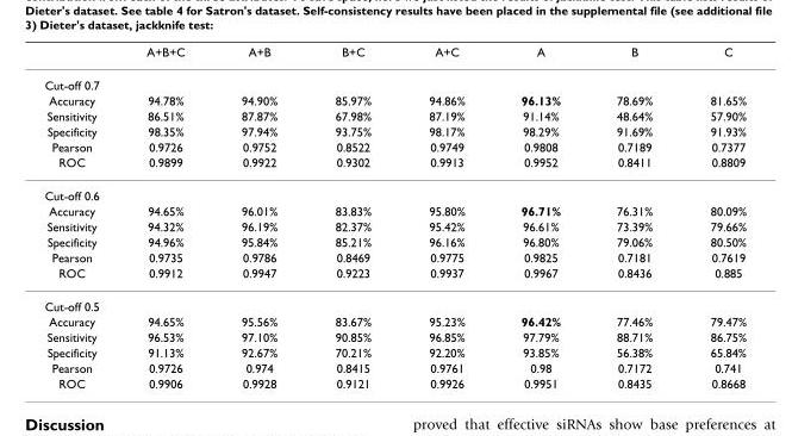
<table><thead><tr><td></td><td>A+B+C</td><td>A+B</td><td>B+C</td><td>A+C</td><td>A</td><td>B</td><td>C</td></tr></thead><tbody><tr><td colspan="8">Cut-off 0.7</td></tr><tr><td>Accuracy</td><td>94.78%</td><td>94.90%</td><td>85.97%</td><td>94.86%</td><td>96.13%</td><td>78.69%</td><td>81.65%</td></tr><tr><td>Sensitivity</td><td>86.51%</td><td>87.87%</td><td>67.98%</td><td>87.19%</td><td>91.14%</td><td>48.64%</td><td>57.90%</td></tr><tr><td>Specificity</td><td>98.35%</td><td>97.94%</td><td>93.75%</td><td>98.17%</td><td>98.29%</td><td>91.69%</td><td>91.93%</td></tr><tr><td>Pearson</td><td>0.9726</td><td>0.9752</td><td>0.8522</td><td>0.9749</td><td>0.9808</td><td>0.7189</td><td>0.7377</td></tr><tr><td>ROC</td><td>0.9899</td><td>0.9922</td><td>0.9302</td><td>0.9913</td><td>0.9952</td><td>0.8411</td><td>0.8809</td></tr><tr><td colspan="8">Cut-off 0.6</td></tr><tr><td>Accuracy</td><td>94.65%</td><td>96.01%</td><td>83.83%</td><td>95.80%</td><td>96.71%</td><td>76.31%</td><td>80.09%</td></tr><tr><td>Sensitivity</td><td>94.32%</td><td>96.19%</td><td>82.37%</td><td>95.42%</td><td>96.61%</td><td>73.39%</td><td>79.66%</td></tr><tr><td>Specificity</td><td>94.96%</td><td>95.84%</td><td>85.21%</td><td>96.16%</td><td>96.80%</td><td>79.06%</td><td>80.50%</td></tr><tr><td>Pearson</td><td>0.9735</td><td>0.9786</td><td>0.8469</td><td>0.9775</td><td>0.9825</td><td>0.7181</td><td>0.7619</td></tr><tr><td>ROC</td><td>0.9912</td><td>0.9947</td><td>0.9223</td><td>0.9937</td><td>0.9967</td><td>0.8436</td><td>0.885</td></tr><tr><td colspan="8">Cut-off 0.5</td></tr><tr><td>Accuracy</td><td>94.65%</td><td>95.56%</td><td>83.67%</td><td>95.23%</td><td>96.42%</td><td>77.46%</td><td>79.47%</td></tr><tr><td>Sensitivity</td><td>96.53%</td><td>97.10%</td><td>90.85%</td><td>96.85%</td><td>97.79%</td><td>88.71%</td><td>86.75%</td></tr><tr><td>Specificity</td><td>91.13%</td><td>92.67%</td><td>70.21%</td><td>92.20%</td><td>93.85%</td><td>56.38%</td><td>65.84%</td></tr><tr><td>Pearson</td><td>0.9726</td><td>0.974</td><td>0.8415</td><td>0.9761</td><td>0.98</td><td>0.7172</td><td>0.741</td></tr><tr><td>ROC</td><td>0.9906</td><td>0.9928</td><td>0.9121</td><td>0.9926</td><td>0.9951</td><td>0.8435</td><td>0.8668</td></tr></tbody></table>